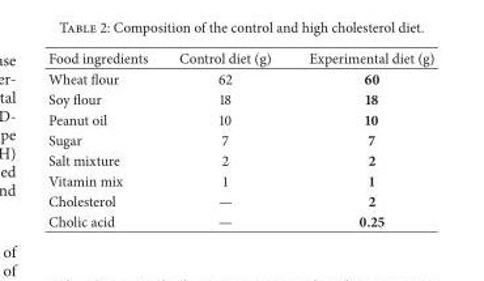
<table><thead><tr><td>Food ingredients</td><td>Control diet (g)</td><td>Experimental diet (g)</td></tr></thead><tbody><tr><td>Wheat flour</td><td>62</td><td>60</td></tr><tr><td>Soy flour</td><td>18</td><td>18</td></tr><tr><td>Peanut oil</td><td>10</td><td>10</td></tr><tr><td>Sugar</td><td>7</td><td>7</td></tr><tr><td>Salt mixture</td><td>2</td><td>2</td></tr><tr><td>Vitamin mix</td><td>1</td><td>1</td></tr><tr><td>Cholesterol</td><td>—</td><td>2</td></tr><tr><td>Cholic acid</td><td>—</td><td>0.25</td></tr></tbody></table>